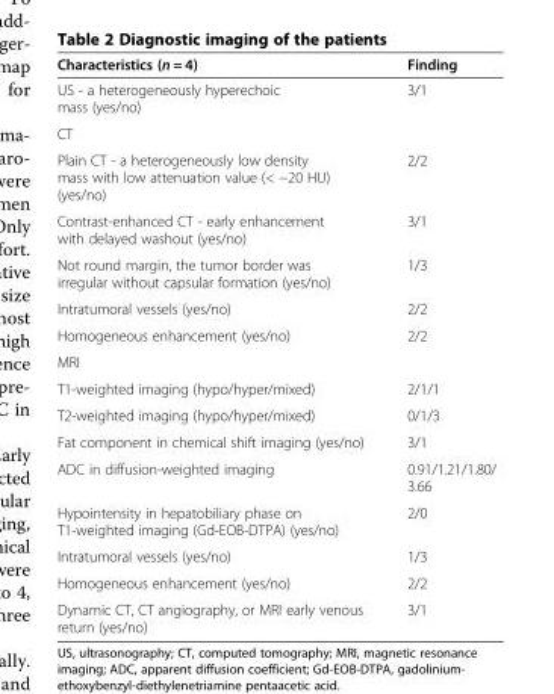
<table><thead><tr><td>Characteristics (n = 4)</td><td>Finding</td></tr></thead><tbody><tr><td>US - a heterogeneously hyperechoic mass (yes/no)</td><td>3/1</td></tr><tr><td colspan="2">CT</td></tr><tr><td>Plain CT - a heterogeneously low density mass with low attenuation value (&lt; −20 HU) (yes/no)</td><td>2/2</td></tr><tr><td>Contrast-enhanced CT - early enhancement with delayed washout (yes/no)</td><td>3/1</td></tr><tr><td>Not round margin, the tumor border was irregular without capsular formation (yes/no)</td><td>1/3</td></tr><tr><td>Intratumoral vessels (yes/no)</td><td>2/2</td></tr><tr><td>Homogeneous enhancement (yes/no)</td><td>2/2</td></tr><tr><td colspan="2">MRI</td></tr><tr><td>T1-weighted imaging (hypo/hyper/mixed)</td><td>2/1/1</td></tr><tr><td>T2-weighted imaging (hypo/hyper/mixed)</td><td>0/1/3</td></tr><tr><td>Fat component in chemical shift imaging (yes/no)</td><td>3/1</td></tr><tr><td>ADC in diffusion-weighted imaging</td><td>0.91/1.21/1.80/ 3.66</td></tr><tr><td>Hypointensity in hepatobiliary phase on T1-weighted imaging (Gd-EOB-DTPA) (yes/no)</td><td>2/0</td></tr><tr><td>Intratumoral vessels (yes/no)</td><td>1/3</td></tr><tr><td>Homogeneous enhancement (yes/no)</td><td>2/2</td></tr><tr><td>Dynamic CT, CT angiography, or MRI early venous return (yes/no)</td><td>3/1</td></tr></tbody></table>